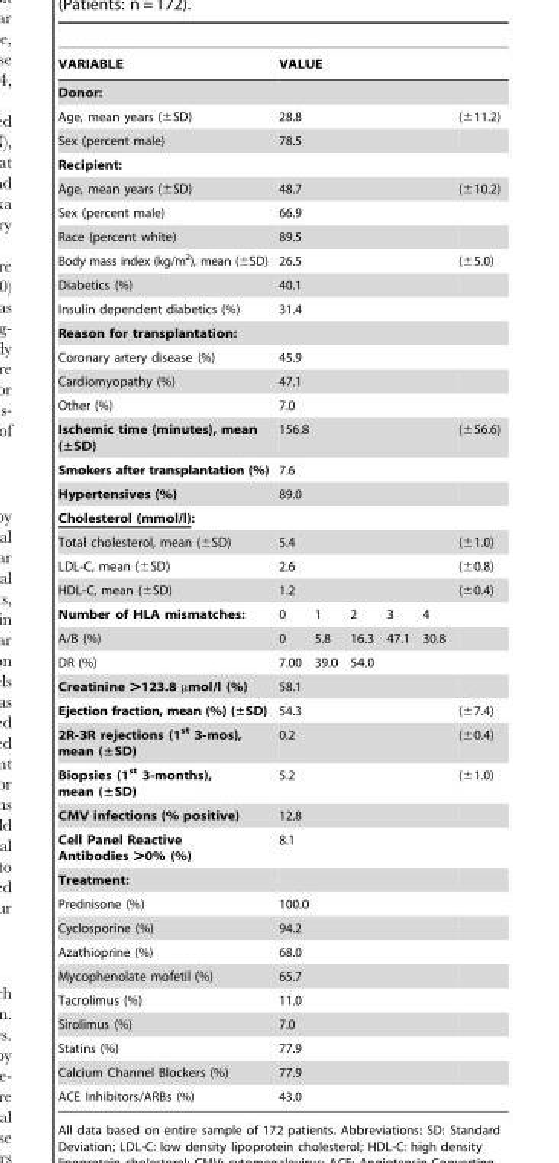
<table><thead><tr><td>VARIABLE</td><td colspan="6">VALUE</td></tr></thead><tbody><tr><td colspan="7">Donor:</td></tr><tr><td>Age, mean years (±SD)</td><td colspan="5">28.8</td><td>(±11.2)</td></tr><tr><td>Sex (percent male)</td><td colspan="5">78.5</td><td></td></tr><tr><td colspan="7">Recipient:</td></tr><tr><td>Age, mean years (±SD)</td><td colspan="5">48.7</td><td>(±10.2)</td></tr><tr><td>Sex (percent male)</td><td colspan="5">66.9</td><td></td></tr><tr><td>Race (percent white)</td><td colspan="5">89.5</td><td></td></tr><tr><td>Body mass index (kg/m<sup>2</sup>), mean (±SD)</td><td colspan="5">26.5</td><td>(±5.0)</td></tr><tr><td>Diabetics (%)</td><td colspan="5">40.1</td><td></td></tr><tr><td>Insulin dependent diabetics (%)</td><td colspan="5">31.4</td><td></td></tr><tr><td colspan="7">Reason for transplantation:</td></tr><tr><td>Coronary artery disease (%)</td><td colspan="5">45.9</td><td></td></tr><tr><td>Cardiomyopathy (%)</td><td colspan="5">47.1</td><td></td></tr><tr><td>Other (%)</td><td colspan="5">7.0</td><td></td></tr><tr><td>Ischemic time (minutes), mean (±SD)</td><td colspan="5">156.8</td><td>(±56.6)</td></tr><tr><td>Smokers after transplantation (%)</td><td colspan="5">7.6</td><td></td></tr><tr><td>Hypertensives (%)</td><td colspan="5">89.0</td><td></td></tr><tr><td colspan="7">Cholesterol (mmol/l):</td></tr><tr><td>Total cholesterol, mean (±SD)</td><td colspan="5">5.4</td><td>(±1.0)</td></tr><tr><td>LDL-C, mean (±SD)</td><td colspan="5">2.6</td><td>(±0.8)</td></tr><tr><td>HDL-C, mean (±SD)</td><td colspan="5">1.2</td><td>(±0.4)</td></tr><tr><td>Number of HLA mismatches:</td><td>0</td><td>1</td><td>2</td><td>3</td><td>4</td><td></td></tr><tr><td>A/B (%)</td><td>0</td><td>5.8</td><td>16.3</td><td>47.1</td><td>30.8</td><td></td></tr><tr><td>DR (%)</td><td>7.00</td><td>39.0</td><td>54.0</td><td></td><td></td><td></td></tr><tr><td>Creatinine &gt;123.8 µmol/l (%)</td><td colspan="5">58.1</td><td></td></tr><tr><td>Ejection fraction, mean (%) (±SD)</td><td colspan="5">54.3</td><td>(±7.4)</td></tr><tr><td>2R-3R rejections (1<sup>st</sup> 3-mos), mean (±SD)</td><td colspan="5">0.2</td><td>(±0.4)</td></tr><tr><td>Biopsies (1<sup>st</sup> 3-months), mean (±SD)</td><td colspan="5">5.2</td><td>(±1.0)</td></tr><tr><td>CMV infections (% positive)</td><td colspan="5">12.8</td><td></td></tr><tr><td>Cell Panel Reactive Antibodies &gt;0% (%)</td><td colspan="5">8.1</td><td></td></tr><tr><td colspan="7">Treatment:</td></tr><tr><td>Prednisone (%)</td><td colspan="5">100.0</td><td></td></tr><tr><td>Cyclosporine (%)</td><td colspan="5">94.2</td><td></td></tr><tr><td>Azathioprine (%)</td><td colspan="5">68.0</td><td></td></tr><tr><td>Mycophenolate mofetil (%)</td><td colspan="5">65.7</td><td></td></tr><tr><td>Tacrolimus (%)</td><td colspan="5">11.0</td><td></td></tr><tr><td>Sirolimus (%)</td><td colspan="5">7.0</td><td></td></tr><tr><td>Statins (%)</td><td colspan="5">77.9</td><td></td></tr><tr><td>Calcium Channel Blockers (%)</td><td colspan="5">77.9</td><td></td></tr><tr><td>ACE Inhibitors/ARBs (%)</td><td colspan="5">43.0</td><td></td></tr></tbody></table>